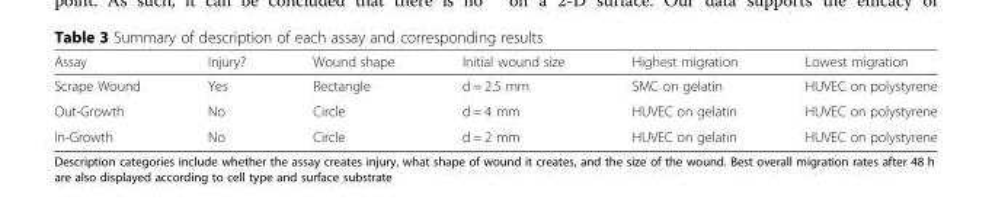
<table><thead><tr><td>Assay</td><td>Injury?</td><td>Wound shape</td><td>Initial wound size</td><td>Highest migration</td><td>Lowest migration</td></tr></thead><tbody><tr><td>Scrape Wound</td><td>Yes</td><td>Rectangle</td><td>d = 2.5 mm</td><td>SMC on gelatin</td><td>HUVEC on polystyrene</td></tr><tr><td>Out-Growth</td><td>No</td><td>Circle</td><td>d = 4 mm</td><td>HUVEC on gelatin</td><td>HUVEC on polystyrene</td></tr><tr><td>In-Growth</td><td>No</td><td>Circle</td><td>d = 2 mm</td><td>HUVEC on gelatin</td><td>HUVEC on polystyrene</td></tr></tbody></table>